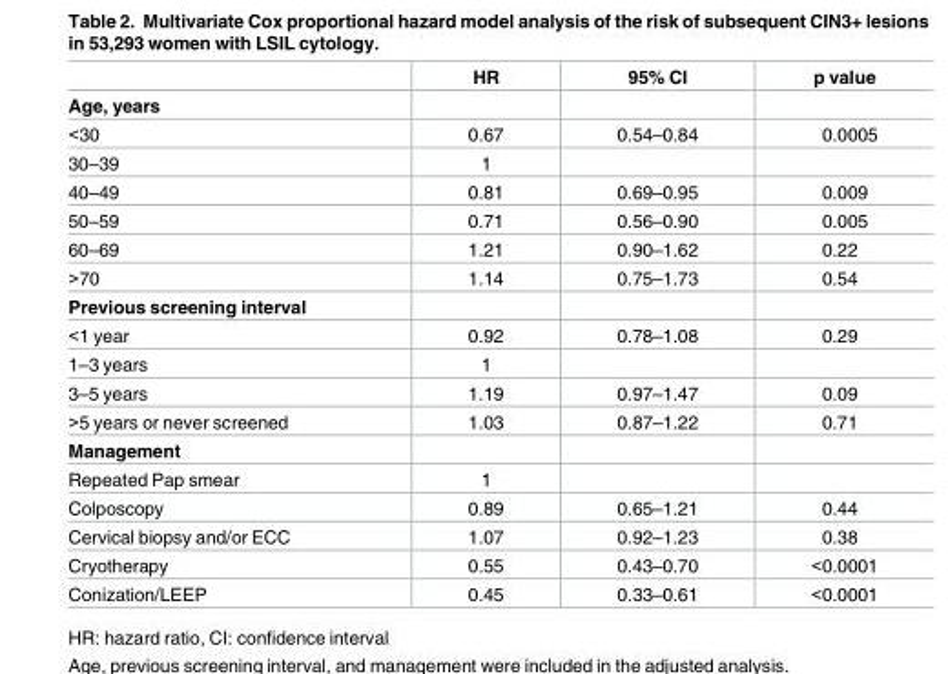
<table><thead><tr><td></td><td>HR</td><td>95% CI</td><td>p value</td></tr></thead><tbody><tr><td colspan="4">Age, years</td></tr><tr><td>&lt;30</td><td>0.67</td><td>0.54–0.84</td><td>0.0005</td></tr><tr><td>30–39</td><td>1</td><td></td><td></td></tr><tr><td>40–49</td><td>0.81</td><td>0.69–0.95</td><td>0.009</td></tr><tr><td>50–59</td><td>0.71</td><td>0.56–0.90</td><td>0.005</td></tr><tr><td>60–69</td><td>1.21</td><td>0.90–1.62</td><td>0.22</td></tr><tr><td>&gt;70</td><td>1.14</td><td>0.75–1.73</td><td>0.54</td></tr><tr><td colspan="4">Previous screening interval</td></tr><tr><td>&lt;1 year</td><td>0.92</td><td>0.78–1.08</td><td>0.29</td></tr><tr><td>1–3 years</td><td>1</td><td></td><td></td></tr><tr><td>3–5 years</td><td>1.19</td><td>0.97–1.47</td><td>0.09</td></tr><tr><td>&gt;5 years or never screened</td><td>1.03</td><td>0.87–1.22</td><td>0.71</td></tr><tr><td colspan="4">Management</td></tr><tr><td>Repeated Pap smear</td><td>1</td><td></td><td></td></tr><tr><td>Colposcopy</td><td>0.89</td><td>0.65–1.21</td><td>0.44</td></tr><tr><td>Cervical biopsy and/or ECC</td><td>1.07</td><td>0.92–1.23</td><td>0.38</td></tr><tr><td>Cryotherapy</td><td>0.55</td><td>0.43–0.70</td><td>&lt;0.0001</td></tr><tr><td>Conization/LEEP</td><td>0.45</td><td>0.33–0.61</td><td>&lt;0.0001</td></tr></tbody></table>